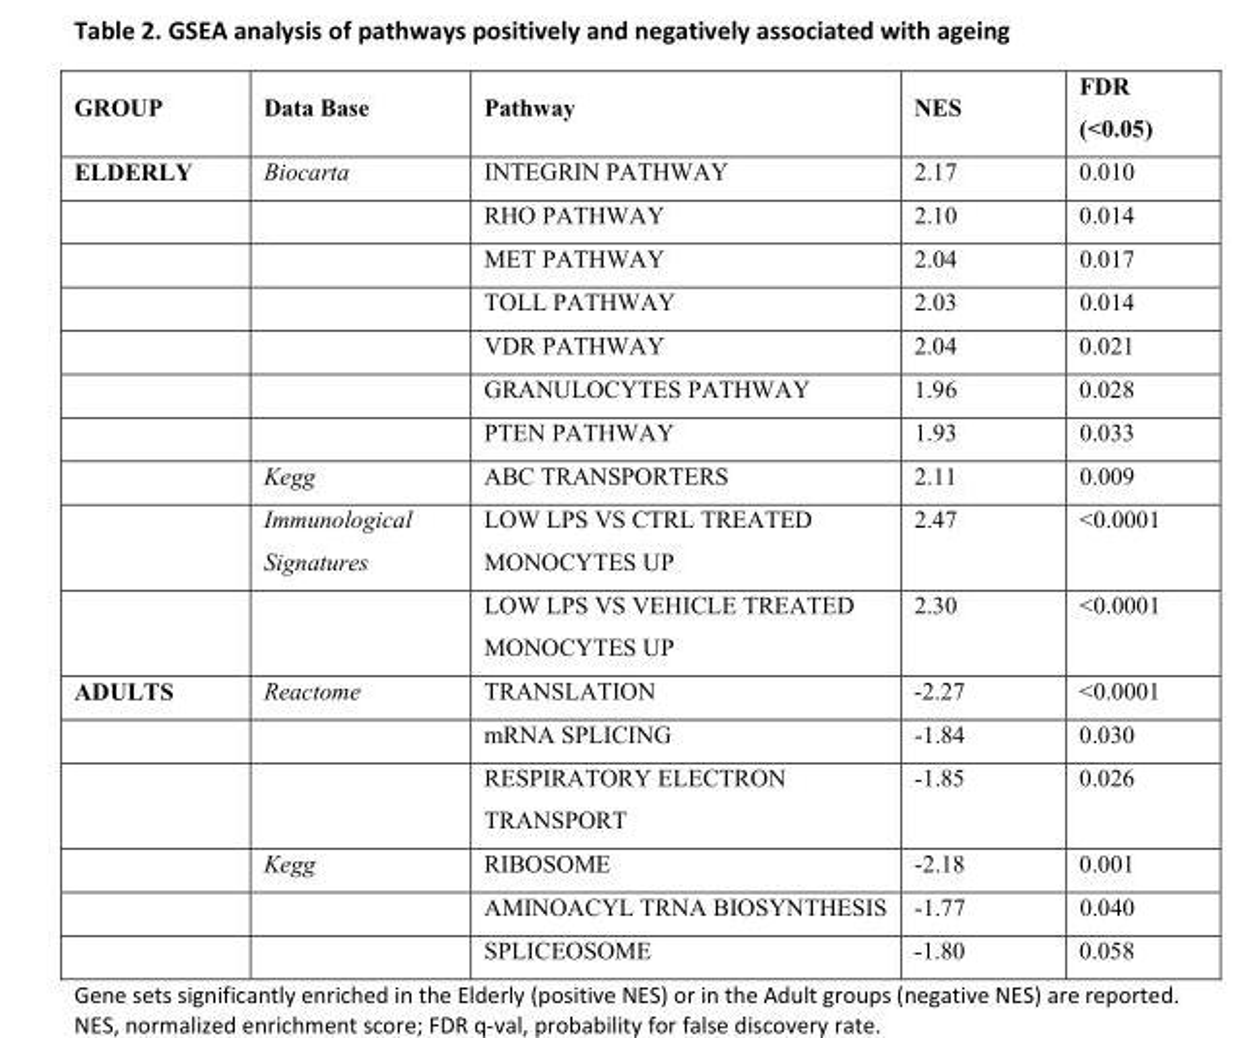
<table><thead><tr><td>GROUP</td><td>Data Base</td><td>Pathway</td><td>NES</td><td>FDR (&lt;0.05)</td></tr></thead><tbody><tr><td rowspan="10">ELDERLY</td><td>Biocarta</td><td>INTEGRIN PATHWAY</td><td>2.17</td><td>0.010</td></tr><tr><td></td><td>RHO PATHWAY</td><td>2.10</td><td>0.014</td></tr><tr><td></td><td>MET PATHWAY</td><td>2.04</td><td>0.017</td></tr><tr><td></td><td>TOLL PATHWAY</td><td>2.03</td><td>0.014</td></tr><tr><td></td><td>VDR PATHWAY</td><td>2.04</td><td>0.021</td></tr><tr><td></td><td>GRANULOCYTES PATHWAY</td><td>1.96</td><td>0.028</td></tr><tr><td></td><td>PTEN PATHWAY</td><td>1.93</td><td>0.033</td></tr><tr><td>Kegg</td><td>ABC TRANSPORTERS</td><td>2.11</td><td>0.009</td></tr><tr><td>Immunological Signatures</td><td>LOW LPS VS CTRL TREATED MONOCYTES UP</td><td>2.47</td><td>&lt;0.0001</td></tr><tr><td></td><td>LOW LPS VS VEHICLE TREATED MONOCYTES UP</td><td>2.30</td><td>&lt;0.0001</td></tr><tr><td rowspan="6">ADULTS</td><td>Reactome</td><td>TRANSLATION</td><td>-2.27</td><td>&lt;0.0001</td></tr><tr><td></td><td>mRNA SPLICING</td><td>-1.84</td><td>0.030</td></tr><tr><td></td><td>RESPIRATORY ELECTRON TRANSPORT</td><td>-1.85</td><td>0.026</td></tr><tr><td>Kegg</td><td>RIBOSOME</td><td>-2.18</td><td>0.001</td></tr><tr><td></td><td>AMINOACYL TRNA BIOSYNTHESIS</td><td>-1.77</td><td>0.040</td></tr><tr><td></td><td>SPLICEOSOME</td><td>-1.80</td><td>0.058</td></tr></tbody></table>